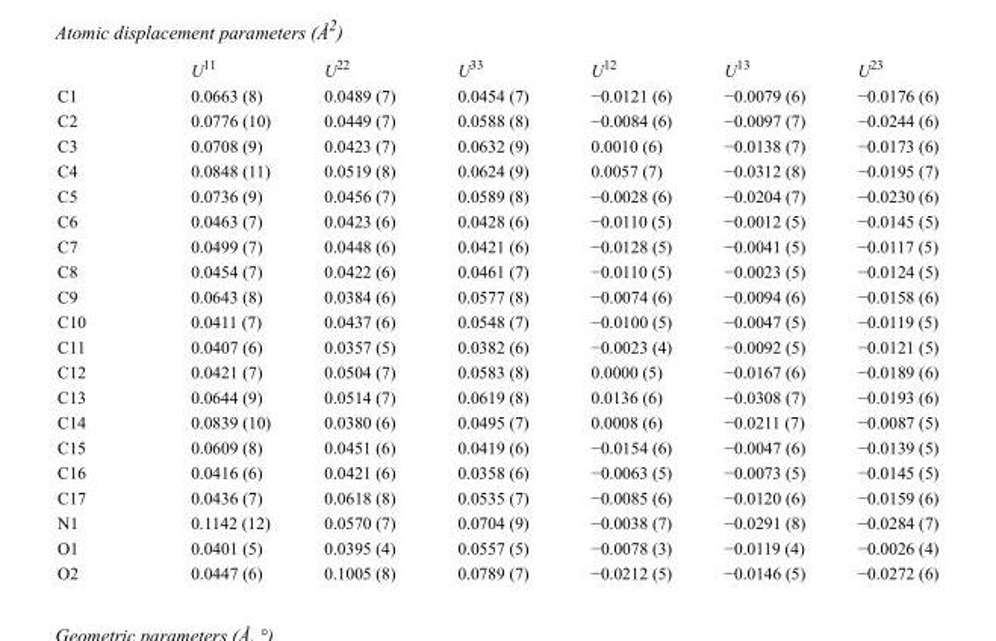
<table><thead><tr><td></td><td>U<sup>11</sup></td><td>U<sup>22</sup></td><td>U<sup>33</sup></td><td>U<sup>12</sup></td><td>U<sup>13</sup></td><td>U<sup>23</sup></td></tr></thead><tbody><tr><td>C1</td><td>0.0663 (8)</td><td>0.0489 (7)</td><td>0.0454 (7)</td><td>−0.0121 (6)</td><td>−0.0079 (6)</td><td>−0.0176 (6)</td></tr><tr><td>C2</td><td>0.0776 (10)</td><td>0.0449 (7)</td><td>0.0588 (8)</td><td>−0.0084 (6)</td><td>−0.0097 (7)</td><td>−0.0244 (6)</td></tr><tr><td>C3</td><td>0.0708 (9)</td><td>0.0423 (7)</td><td>0.0632 (9)</td><td>0.0010 (6)</td><td>−0.0138 (7)</td><td>−0.0173 (6)</td></tr><tr><td>C4</td><td>0.0848 (11)</td><td>0.0519 (8)</td><td>0.0624 (9)</td><td>0.0057 (7)</td><td>−0.0312 (8)</td><td>−0.0195 (7)</td></tr><tr><td>C5</td><td>0.0736 (9)</td><td>0.0456 (7)</td><td>0.0589 (8)</td><td>−0.0028 (6)</td><td>−0.0204 (7)</td><td>−0.0230 (6)</td></tr><tr><td>C6</td><td>0.0463 (7)</td><td>0.0423 (6)</td><td>0.0428 (6)</td><td>−0.0110 (5)</td><td>−0.0012 (5)</td><td>−0.0145 (5)</td></tr><tr><td>C7</td><td>0.0499 (7)</td><td>0.0448 (6)</td><td>0.0421 (6)</td><td>−0.0128 (5)</td><td>−0.0041 (5)</td><td>−0.0117 (5)</td></tr><tr><td>C8</td><td>0.0454 (7)</td><td>0.0422 (6)</td><td>0.0461 (7)</td><td>−0.0110 (5)</td><td>−0.0023 (5)</td><td>−0.0124 (5)</td></tr><tr><td>C9</td><td>0.0643 (8)</td><td>0.0384 (6)</td><td>0.0577 (8)</td><td>−0.0074 (6)</td><td>−0.0094 (6)</td><td>−0.0158 (6)</td></tr><tr><td>C10</td><td>0.0411 (7)</td><td>0.0437 (6)</td><td>0.0548 (7)</td><td>−0.0100 (5)</td><td>−0.0047 (5)</td><td>−0.0119 (5)</td></tr><tr><td>C11</td><td>0.0407 (6)</td><td>0.0357 (5)</td><td>0.0382 (6)</td><td>−0.0023 (4)</td><td>−0.0092 (5)</td><td>−0.0121 (5)</td></tr><tr><td>C12</td><td>0.0421 (7)</td><td>0.0504 (7)</td><td>0.0583 (8)</td><td>0.0000 (5)</td><td>−0.0167 (6)</td><td>−0.0189 (6)</td></tr><tr><td>C13</td><td>0.0644 (9)</td><td>0.0514 (7)</td><td>0.0619 (8)</td><td>0.0136 (6)</td><td>−0.0308 (7)</td><td>−0.0193 (6)</td></tr><tr><td>C14</td><td>0.0839 (10)</td><td>0.0380 (6)</td><td>0.0495 (7)</td><td>0.0008 (6)</td><td>−0.0211 (7)</td><td>−0.0087 (5)</td></tr><tr><td>C15</td><td>0.0609 (8)</td><td>0.0451 (6)</td><td>0.0419 (6)</td><td>−0.0154 (6)</td><td>−0.0047 (6)</td><td>−0.0139 (5)</td></tr><tr><td>C16</td><td>0.0416 (6)</td><td>0.0421 (6)</td><td>0.0358 (6)</td><td>−0.0063 (5)</td><td>−0.0073 (5)</td><td>−0.0145 (5)</td></tr><tr><td>C17</td><td>0.0436 (7)</td><td>0.0618 (8)</td><td>0.0535 (7)</td><td>−0.0085 (6)</td><td>−0.0120 (6)</td><td>−0.0159 (6)</td></tr><tr><td>N1</td><td>0.1142 (12)</td><td>0.0570 (7)</td><td>0.0704 (9)</td><td>−0.0038 (7)</td><td>−0.0291 (8)</td><td>−0.0284 (7)</td></tr><tr><td>O1</td><td>0.0401 (5)</td><td>0.0395 (4)</td><td>0.0557 (5)</td><td>−0.0078 (3)</td><td>−0.0119 (4)</td><td>−0.0026 (4)</td></tr><tr><td>O2</td><td>0.0447 (6)</td><td>0.1005 (8)</td><td>0.0789 (7)</td><td>−0.0212 (5)</td><td>−0.0146 (5)</td><td>−0.0272 (6)</td></tr></tbody></table>